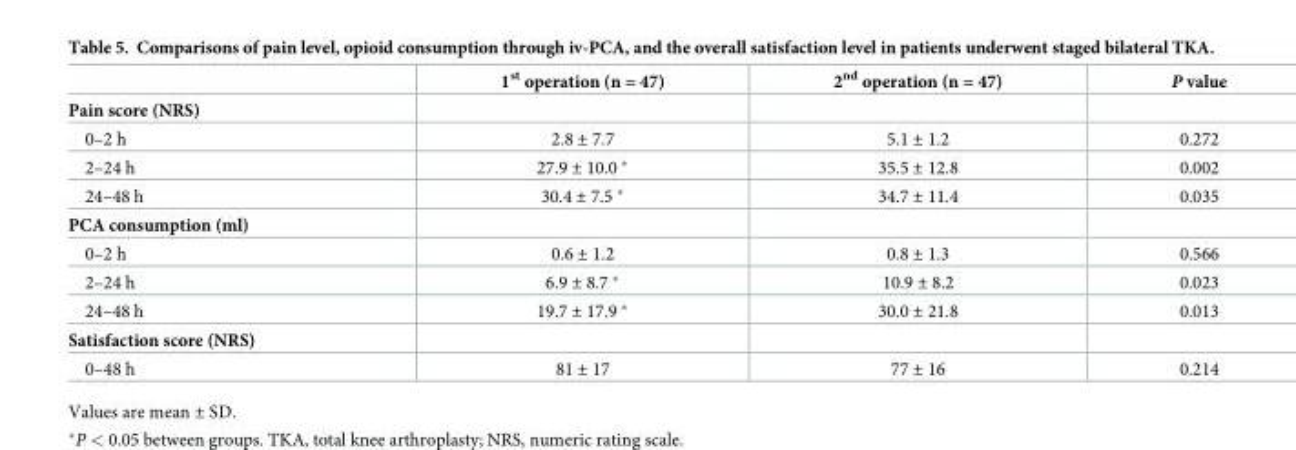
<table><thead><tr><td></td><td>1<sup>st</sup> operation (n = 47)</td><td>2<sup>nd</sup> operation (n = 47)</td><td>P value</td></tr></thead><tbody><tr><td colspan="4">Pain score (NRS)</td></tr><tr><td>0–2 h</td><td>2.8 ± 7.7</td><td>5.1 ± 1.2</td><td>0.272</td></tr><tr><td>2–24 h</td><td>27.9 ± 10.0 *</td><td>35.5 ± 12.8</td><td>0.002</td></tr><tr><td>24–48 h</td><td>30.4 ± 7.5 *</td><td>34.7 ± 11.4</td><td>0.035</td></tr><tr><td colspan="4">PCA consumption (ml)</td></tr><tr><td>0–2 h</td><td>0.6 ± 1.2</td><td>0.8 ± 1.3</td><td>0.566</td></tr><tr><td>2–24 h</td><td>6.9 ± 8.7 *</td><td>10.9 ± 8.2</td><td>0.023</td></tr><tr><td>24–48 h</td><td>19.7 ± 17.9 *</td><td>30.0 ± 21.8</td><td>0.013</td></tr><tr><td colspan="4">Satisfaction score (NRS)</td></tr><tr><td>0–48 h</td><td>81 ± 17</td><td>77 ± 16</td><td>0.214</td></tr></tbody></table>